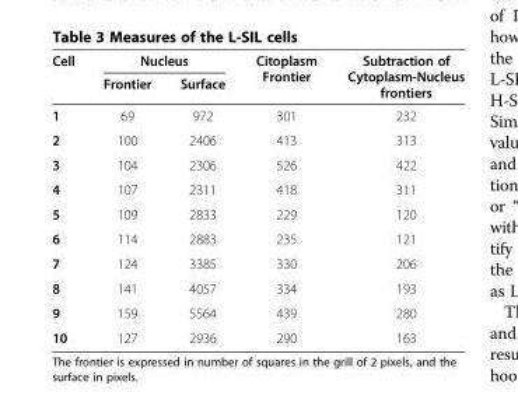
<table><thead><tr><td rowspan="2">Cell</td><td colspan="2">Nucleus</td><td rowspan="2">Citoplasm Frontier</td><td rowspan="2">Subtraction of Cytoplasm-Nucleus frontiers</td></tr><tr><td>Frontier</td><td>Surface</td></tr></thead><tbody><tr><td>1</td><td>69</td><td>972</td><td>301</td><td>232</td></tr><tr><td>2</td><td>100</td><td>2406</td><td>413</td><td>313</td></tr><tr><td>3</td><td>104</td><td>2306</td><td>526</td><td>422</td></tr><tr><td>4</td><td>107</td><td>2311</td><td>418</td><td>311</td></tr><tr><td>5</td><td>109</td><td>2833</td><td>229</td><td>120</td></tr><tr><td>6</td><td>114</td><td>2883</td><td>235</td><td>121</td></tr><tr><td>7</td><td>124</td><td>3385</td><td>330</td><td>206</td></tr><tr><td>8</td><td>141</td><td>4057</td><td>334</td><td>193</td></tr><tr><td>9</td><td>159</td><td>5564</td><td>439</td><td>280</td></tr><tr><td>10</td><td>127</td><td>2936</td><td>290</td><td>163</td></tr></tbody></table>